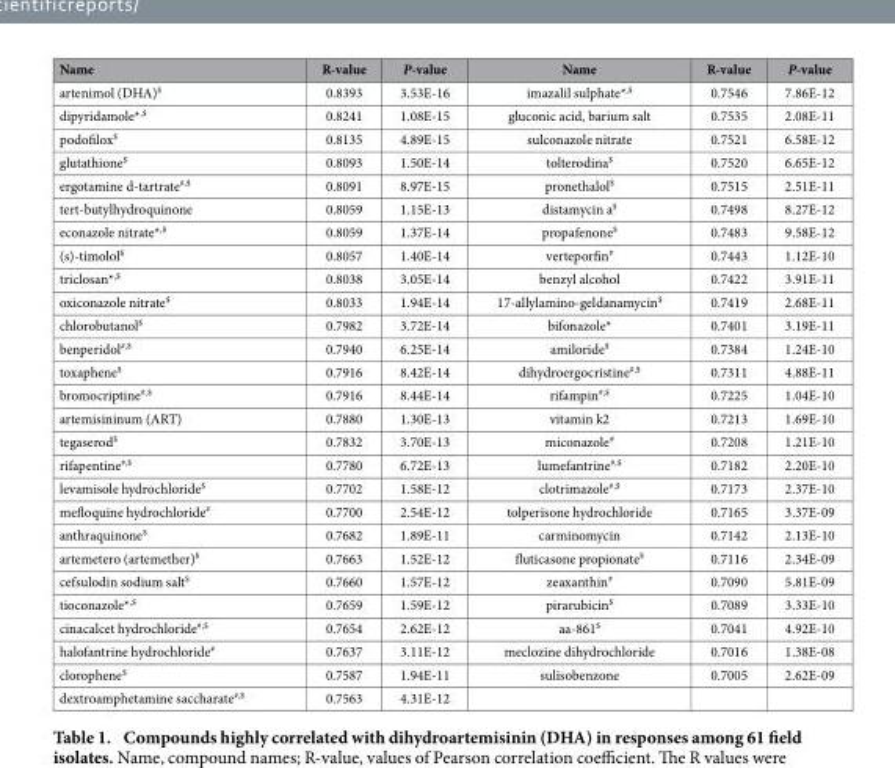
<table><thead><tr><td>Name</td><td>R-value</td><td>P-value</td><td>Name</td><td>R-value</td><td>P-value</td></tr></thead><tbody><tr><td>artenimol (DHA)$</td><td>0.8393</td><td>3.53E-16</td><td>imazalil sulphate*,$</td><td>0.7546</td><td>7.86E-12</td></tr><tr><td>dipyridamole*,$</td><td>0.8241</td><td>1.08E-15</td><td>gluconic acid, barium salt</td><td>0.7535</td><td>2.08E-11</td></tr><tr><td>podofilox$</td><td>0.8135</td><td>4.89E-15</td><td>sulconazole nitrate</td><td>0.7521</td><td>6.58E-12</td></tr><tr><td>glutathione$</td><td>0.8093</td><td>1.50E-14</td><td>tolterodina$</td><td>0.7520</td><td>6.65E-12</td></tr><tr><td>ergotamine d-tartrate<sup>#,$</sup></td><td>0.8091</td><td>8.97E-15</td><td>pronethalol$</td><td>0.7515</td><td>2.51E-11</td></tr><tr><td>tert-butylhydroquinone</td><td>0.8059</td><td>1.15E-13</td><td>distamycin a$</td><td>0.7498</td><td>8.27E-12</td></tr><tr><td>econazole nitrate*,$</td><td>0.8059</td><td>1.37E-14</td><td>propafenone$</td><td>0.7483</td><td>9.58E-12</td></tr><tr><td>(s)-timolol$</td><td>0.8057</td><td>1.40E-14</td><td>verteporfin#</td><td>0.7443</td><td>1.12E-10</td></tr><tr><td>triclosan*,$</td><td>0.8038</td><td>3.05E-14</td><td>benzyl alcohol</td><td>0.7422</td><td>3.91E-11</td></tr><tr><td>oxiconazole nitrate$</td><td>0.8033</td><td>1.94E-14</td><td>17-allylamino-geldanamycin$</td><td>0.7419</td><td>2.68E-11</td></tr><tr><td>chlorobutanol$</td><td>0.7982</td><td>3.72E-14</td><td>bifonazole*</td><td>0.7401</td><td>3.19E-11</td></tr><tr><td>benperidol<sup>#,$</sup></td><td>0.7940</td><td>6.25E-14</td><td>amiloride$</td><td>0.7384</td><td>1.24E-10</td></tr><tr><td>toxaphene$</td><td>0.7916</td><td>8.42E-14</td><td>dihydroergocristine<sup>#,$</sup></td><td>0.7311</td><td>4.88E-11</td></tr><tr><td>bromocriptine<sup>#,$</sup></td><td>0.7916</td><td>8.44E-14</td><td>rifampin<sup>#,$</sup></td><td>0.7225</td><td>1.04E-10</td></tr><tr><td>artemisininum (ART)</td><td>0.7880</td><td>1.30E-13</td><td>vitamin k2</td><td>0.7213</td><td>1.69E-10</td></tr><tr><td>tegaserod$</td><td>0.7832</td><td>3.70E-13</td><td>miconazole#</td><td>0.7208</td><td>1.21E-10</td></tr><tr><td>rifapentine<sup>#,$</sup></td><td>0.7780</td><td>6.72E-13</td><td>lumefantrine<sup>#,$</sup></td><td>0.7182</td><td>2.20E-10</td></tr><tr><td>levamisole hydrochloride$</td><td>0.7702</td><td>1.58E-12</td><td>clotrimazole<sup>#,$</sup></td><td>0.7173</td><td>2.37E-10</td></tr><tr><td>mefloquine hydrochloride#</td><td>0.7700</td><td>2.54E-12</td><td>tolperisone hydrochloride</td><td>0.7165</td><td>3.37E-09</td></tr><tr><td>anthraquinone$</td><td>0.7682</td><td>1.89E-11</td><td>carminomycin</td><td>0.7142</td><td>2.13E-10</td></tr><tr><td>artemetero (artemether)$</td><td>0.7663</td><td>1.52E-12</td><td>fluticasone propionate$</td><td>0.7116</td><td>2.34E-09</td></tr><tr><td>cefsulodin sodium salt$</td><td>0.7660</td><td>1.57E-12</td><td>zeaxanthin#</td><td>0.7090</td><td>5.81E-09</td></tr><tr><td>tioconazole*<sup>,$</sup></td><td>0.7659</td><td>1.59E-12</td><td>pirarubicin$</td><td>0.7089</td><td>3.33E-10</td></tr><tr><td>cinacalcet hydrochloride<sup>#,$</sup></td><td>0.7654</td><td>2.62E-12</td><td>aa-861$</td><td>0.7041</td><td>4.92E-10</td></tr><tr><td>halofantrine hydrochloride#</td><td>0.7637</td><td>3.11E-12</td><td>meclozine dihydrochloride</td><td>0.7016</td><td>1.38E-08</td></tr><tr><td>clorophene$</td><td>0.7587</td><td>1.94E-11</td><td>sulisobenzone</td><td>0.7005</td><td>2.62E-09</td></tr><tr><td>dextroamphetamine saccharate<sup>#,$</sup></td><td>0.7563</td><td>4.31E-12</td><td></td><td></td><td></td></tr></tbody></table>